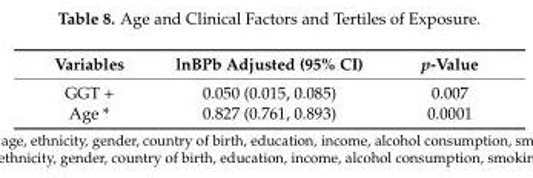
<table><thead><tr><td>Variables</td><td>lnBPb Adjusted (95% CI)</td><td>p-Value</td></tr></thead><tbody><tr><td>GGT +</td><td>0.050 (0.015, 0.085)</td><td>0.007</td></tr><tr><td>Age *</td><td>0.827 (0.761, 0.893)</td><td>0.0001</td></tr></tbody></table>